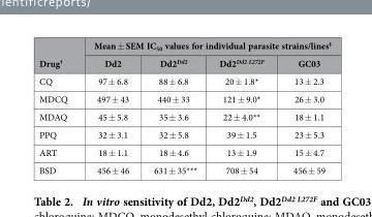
<table><thead><tr><td rowspan="2">Drug†</td><td colspan="4">Mean ± SEM IC<sub>50</sub> values for individual parasite strains/lines‡</td></tr><tr><td>Dd2</td><td>Dd2<sup>Dd2</sup></td><td>Dd2<sup>Dd2 L272F</sup></td><td>GC03</td></tr></thead><tbody><tr><td>CQ</td><td>97 ± 6.8</td><td>88 ± 6.8</td><td>20 ± 1.8*</td><td>13 ± 2.3</td></tr><tr><td>MDCQ</td><td>497 ± 43</td><td>440 ± 33</td><td>121 ± 9.0*</td><td>26 ± 3.0</td></tr><tr><td>MDAQ</td><td>45 ± 5.8</td><td>35 ± 3.6</td><td>22 ± 4.0**</td><td>18 ± 1.1</td></tr><tr><td>PPQ</td><td>32 ± 3.1</td><td>32 ± 5.8</td><td>39 ± 1.5</td><td>23 ± 5.3</td></tr><tr><td>ART</td><td>18 ± 1.1</td><td>18 ± 4.6</td><td>13 ± 1.9</td><td>15 ± 4.7</td></tr><tr><td>BSD</td><td>456 ± 46</td><td>631 ± 35***</td><td>708 ± 54</td><td>456 ± 59</td></tr></tbody></table>